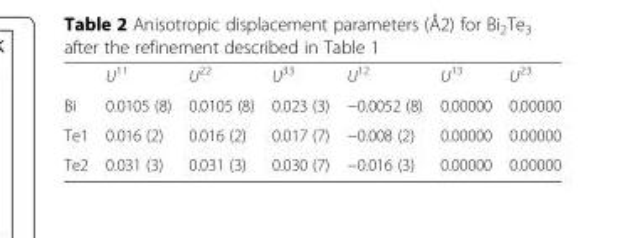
<table><thead><tr><td></td><td>U<sup>11</sup></td><td>U<sup>22</sup></td><td>U<sup>33</sup></td><td>U<sup>12</sup></td><td>U<sup>13</sup></td><td>U<sup>23</sup></td></tr></thead><tbody><tr><td>Bi</td><td>0.0105 (8)</td><td>0.0105 (8)</td><td>0.023 (3)</td><td>−0.0052 (8)</td><td>0.00000</td><td>0.00000</td></tr><tr><td>Te1</td><td>0.016 (2)</td><td>0.016 (2)</td><td>0.017 (7)</td><td>−0.008 (2)</td><td>0.00000</td><td>0.00000</td></tr><tr><td>Te2</td><td>0.031 (3)</td><td>0.031 (3)</td><td>0.030 (7)</td><td>−0.016 (3)</td><td>0.00000</td><td>0.00000</td></tr></tbody></table>